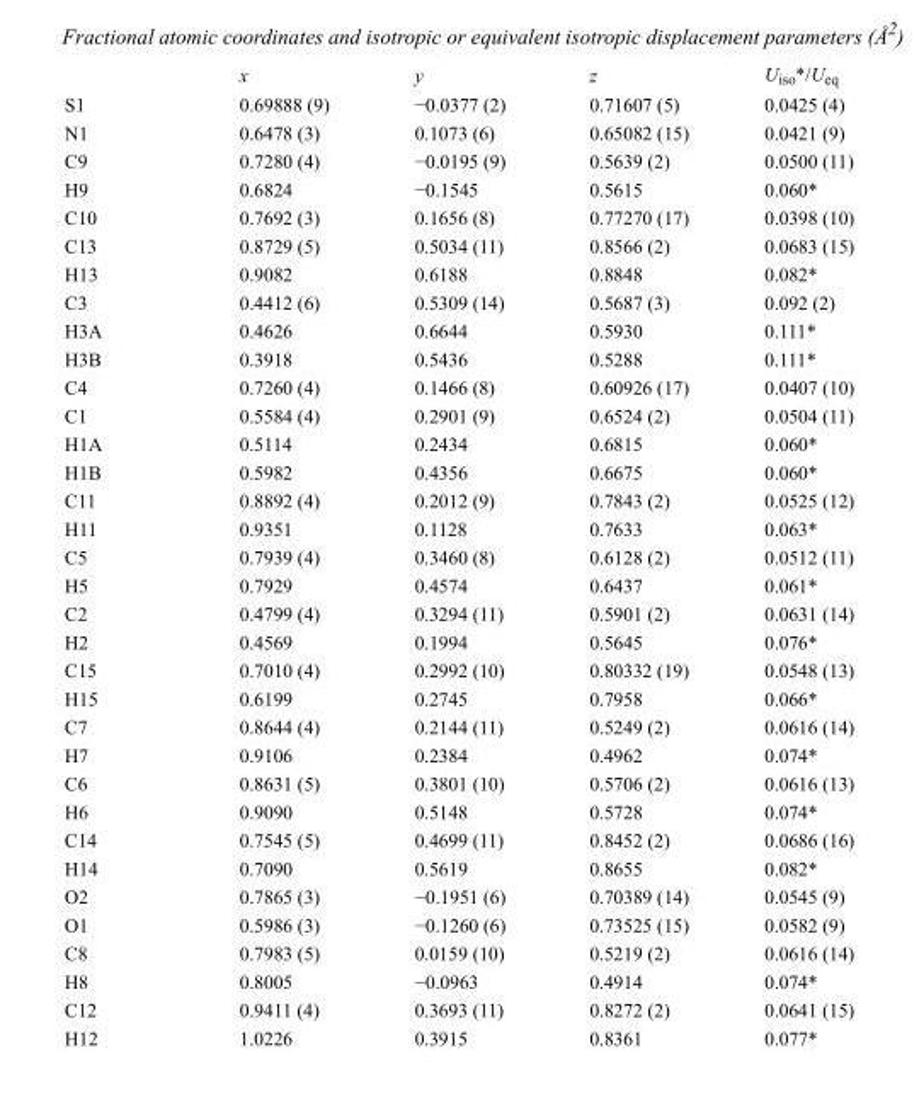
<table><thead><tr><td></td><td>x</td><td>y</td><td>z</td><td>U<sub>iso</sub>*/U<sub>eq</sub></td></tr></thead><tbody><tr><td>S1</td><td>0.69888 (9)</td><td>−0.0377 (2)</td><td>0.71607 (5)</td><td>0.0425 (4)</td></tr><tr><td>N1</td><td>0.6478 (3)</td><td>0.1073 (6)</td><td>0.65082 (15)</td><td>0.0421 (9)</td></tr><tr><td>C9</td><td>0.7280 (4)</td><td>−0.0195 (9)</td><td>0.5639 (2)</td><td>0.0500 (11)</td></tr><tr><td>H9</td><td>0.6824</td><td>−0.1545</td><td>0.5615</td><td>0.060*</td></tr><tr><td>C10</td><td>0.7692 (3)</td><td>0.1656 (8)</td><td>0.77270 (17)</td><td>0.0398 (10)</td></tr><tr><td>C13</td><td>0.8729 (5)</td><td>0.5034 (11)</td><td>0.8566 (2)</td><td>0.0683 (15)</td></tr><tr><td>H13</td><td>0.9082</td><td>0.6188</td><td>0.8848</td><td>0.082*</td></tr><tr><td>C3</td><td>0.4412 (6)</td><td>0.5309 (14)</td><td>0.5687 (3)</td><td>0.092 (2)</td></tr><tr><td>H3A</td><td>0.4626</td><td>0.6644</td><td>0.5930</td><td>0.111*</td></tr><tr><td>H3B</td><td>0.3918</td><td>0.5436</td><td>0.5288</td><td>0.111*</td></tr><tr><td>C4</td><td>0.7260 (4)</td><td>0.1466 (8)</td><td>0.60926 (17)</td><td>0.0407 (10)</td></tr><tr><td>C1</td><td>0.5584 (4)</td><td>0.2901 (9)</td><td>0.6524 (2)</td><td>0.0504 (11)</td></tr><tr><td>H1A</td><td>0.5114</td><td>0.2434</td><td>0.6815</td><td>0.060*</td></tr><tr><td>H1B</td><td>0.5982</td><td>0.4356</td><td>0.6675</td><td>0.060*</td></tr><tr><td>C11</td><td>0.8892 (4)</td><td>0.2012 (9)</td><td>0.7843 (2)</td><td>0.0525 (12)</td></tr><tr><td>H11</td><td>0.9351</td><td>0.1128</td><td>0.7633</td><td>0.063*</td></tr><tr><td>C5</td><td>0.7939 (4)</td><td>0.3460 (8)</td><td>0.6128 (2)</td><td>0.0512 (11)</td></tr><tr><td>H5</td><td>0.7929</td><td>0.4574</td><td>0.6437</td><td>0.061*</td></tr><tr><td>C2</td><td>0.4799 (4)</td><td>0.3294 (11)</td><td>0.5901 (2)</td><td>0.0631 (14)</td></tr><tr><td>H2</td><td>0.4569</td><td>0.1994</td><td>0.5645</td><td>0.076*</td></tr><tr><td>C15</td><td>0.7010 (4)</td><td>0.2992 (10)</td><td>0.80332 (19)</td><td>0.0548 (13)</td></tr><tr><td>H15</td><td>0.6199</td><td>0.2745</td><td>0.7958</td><td>0.066*</td></tr><tr><td>C7</td><td>0.8644 (4)</td><td>0.2144 (11)</td><td>0.5249 (2)</td><td>0.0616 (14)</td></tr><tr><td>H7</td><td>0.9106</td><td>0.2384</td><td>0.4962</td><td>0.074*</td></tr><tr><td>C6</td><td>0.8631 (5)</td><td>0.3801 (10)</td><td>0.5706 (2)</td><td>0.0616 (13)</td></tr><tr><td>H6</td><td>0.9090</td><td>0.5148</td><td>0.5728</td><td>0.074*</td></tr><tr><td>C14</td><td>0.7545 (5)</td><td>0.4699 (11)</td><td>0.8452 (2)</td><td>0.0686 (16)</td></tr><tr><td>H14</td><td>0.7090</td><td>0.5619</td><td>0.8655</td><td>0.082*</td></tr><tr><td>O2</td><td>0.7865 (3)</td><td>−0.1951 (6)</td><td>0.70389 (14)</td><td>0.0545 (9)</td></tr><tr><td>O1</td><td>0.5986 (3)</td><td>−0.1260 (6)</td><td>0.73525 (15)</td><td>0.0582 (9)</td></tr><tr><td>C8</td><td>0.7983 (5)</td><td>0.0159 (10)</td><td>0.5219 (2)</td><td>0.0616 (14)</td></tr><tr><td>H8</td><td>0.8005</td><td>−0.0963</td><td>0.4914</td><td>0.074*</td></tr><tr><td>C12</td><td>0.9411 (4)</td><td>0.3693 (11)</td><td>0.8272 (2)</td><td>0.0641 (15)</td></tr><tr><td>H12</td><td>1.0226</td><td>0.3915</td><td>0.8361</td><td>0.077*</td></tr></tbody></table>